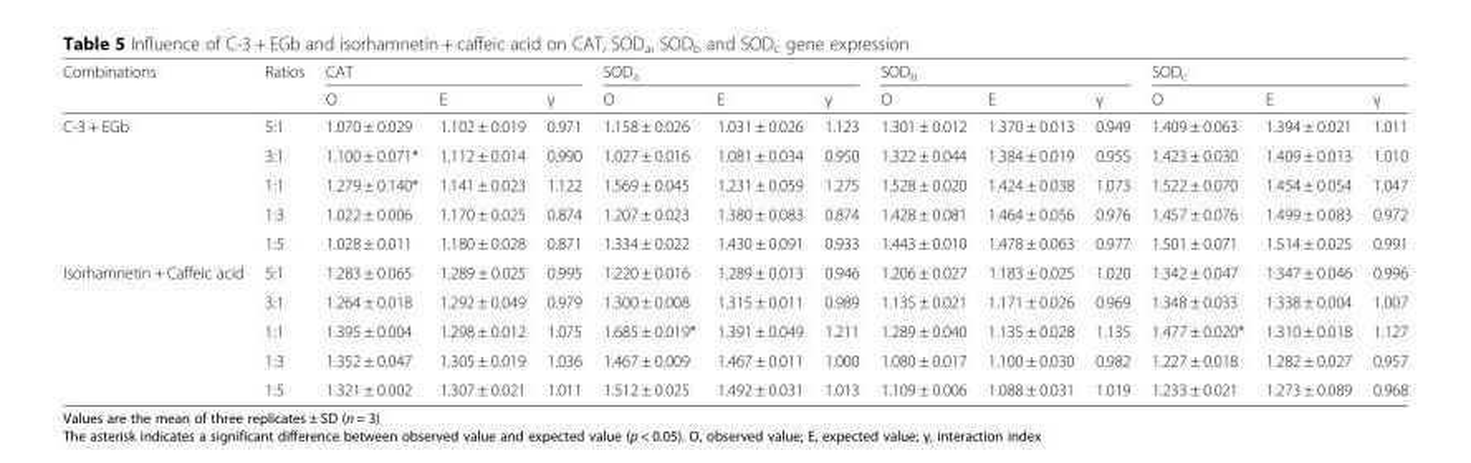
<table><thead><tr><td rowspan="2">Combinations</td><td rowspan="2">Ratios</td><td colspan="3">CAT</td><td colspan="3">SOD<sub>a</sub></td><td colspan="3">SOD<sub>b</sub></td><td colspan="3">SOD<sub>c</sub></td></tr><tr><td>O</td><td>E</td><td>γ</td><td>O</td><td>E</td><td>γ</td><td>O</td><td>E</td><td>γ</td><td>O</td><td>E</td><td>γ</td></tr></thead><tbody><tr><td rowspan="5">C-3 + EGb</td><td>5:1</td><td>1.070 ± 0.029</td><td>1.102 ± 0.019</td><td>0.971</td><td>1.158 ± 0.026</td><td>1.031 ± 0.026</td><td>1.123</td><td>1.301 ± 0.012</td><td>1.370 ± 0.013</td><td>0.949</td><td>1.409 ± 0.063</td><td>1.394 ± 0.021</td><td>1.011</td></tr><tr><td>3:1</td><td>1.100 ± 0.071*</td><td>1.112 ± 0.014</td><td>0.990</td><td>1.027 ± 0.016</td><td>1.081 ± 0.034</td><td>0.950</td><td>1.322 ± 0.044</td><td>1.384 ± 0.019</td><td>0.955</td><td>1.423 ± 0.030</td><td>1.409 ± 0.013</td><td>1.010</td></tr><tr><td>1:1</td><td>1.279 ± 0.140*</td><td>1.141 ± 0.023</td><td>1.122</td><td>1.569 ± 0.045</td><td>1.231 ± 0.059</td><td>1.275</td><td>1.528 ± 0.020</td><td>1.424 ± 0.038</td><td>1.073</td><td>1.522 ± 0.070</td><td>1.454 ± 0.054</td><td>1.047</td></tr><tr><td>1:3</td><td>1.022 ± 0.006</td><td>1.170 ± 0.025</td><td>0.874</td><td>1.207 ± 0.023</td><td>1.380 ± 0.083</td><td>0.874</td><td>1.428 ± 0.081</td><td>1.464 ± 0.056</td><td>0.976</td><td>1.457 ± 0.076</td><td>1.499 ± 0.083</td><td>0.972</td></tr><tr><td>1:5</td><td>1.028 ± 0.011</td><td>1.180 ± 0.028</td><td>0.871</td><td>1.334 ± 0.022</td><td>1.430 ± 0.091</td><td>0.933</td><td>1.443 ± 0.010</td><td>1.478 ± 0.063</td><td>0.977</td><td>1.501 ± 0.071</td><td>1.514 ± 0.025</td><td>0.991</td></tr><tr><td rowspan="5">Isorhamnetin + Caffeic acid</td><td>5:1</td><td>1.283 ± 0.065</td><td>1.289 ± 0.025</td><td>0.995</td><td>1.220 ± 0.016</td><td>1.289 ± 0.013</td><td>0.946</td><td>1.206 ± 0.027</td><td>1.183 ± 0.025</td><td>1.020</td><td>1.342 ± 0.047</td><td>1.347 ± 0.046</td><td>0.996</td></tr><tr><td>3:1</td><td>1.264 ± 0.018</td><td>1.292 ± 0.049</td><td>0.979</td><td>1.300 ± 0.008</td><td>1.315 ± 0.011</td><td>0.989</td><td>1.135 ± 0.021</td><td>1.171 ± 0.026</td><td>0.969</td><td>1.348 ± 0.033</td><td>1.338 ± 0.004</td><td>1.007</td></tr><tr><td>1:1</td><td>1.395 ± 0.004</td><td>1.298 ± 0.012</td><td>1.075</td><td>1.685 ± 0.019*</td><td>1.391 ± 0.049</td><td>1.211</td><td>1.289 ± 0.040</td><td>1.135 ± 0.028</td><td>1.135</td><td>1.477 ± 0.020*</td><td>1.310 ± 0.018</td><td>1.127</td></tr><tr><td>1:3</td><td>1.352 ± 0.047</td><td>1.305 ± 0.019</td><td>1.036</td><td>1.467 ± 0.009</td><td>1.467 ± 0.011</td><td>1.000</td><td>1.080 ± 0.017</td><td>1.100 ± 0.030</td><td>0.982</td><td>1.227 ± 0.018</td><td>1.282 ± 0.027</td><td>0.957</td></tr><tr><td>1:5</td><td>1.321 ± 0.002</td><td>1.307 ± 0.021</td><td>1.011</td><td>1.512 ± 0.025</td><td>1.492 ± 0.031</td><td>1.013</td><td>1.109 ± 0.006</td><td>1.088 ± 0.031</td><td>1.019</td><td>1.233 ± 0.021</td><td>1.273 ± 0.089</td><td>0.968</td></tr></tbody></table>